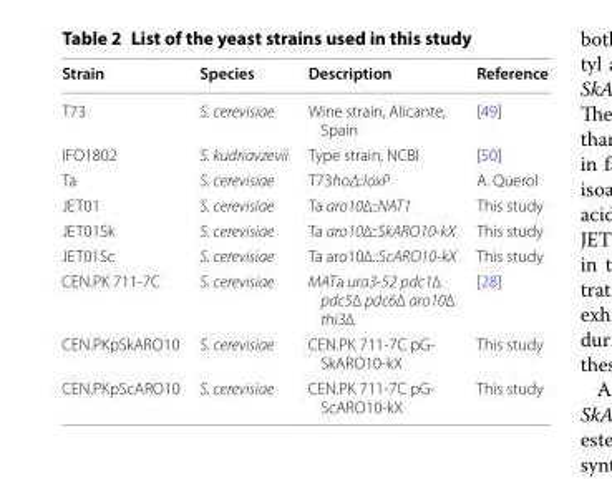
<table><thead><tr><td>Strain</td><td>Species</td><td>Description</td><td>Reference</td></tr></thead><tbody><tr><td>T73</td><td>S. cerevisiae</td><td>Wine strain, Alicante, Spain</td><td>[49]</td></tr><tr><td>IFO1802</td><td>S. kudriavzevii</td><td>Type strain, NCBI</td><td>[50]</td></tr><tr><td>Ta</td><td>S. cerevisiae</td><td>T73ho∆::loxP</td><td>A. Querol</td></tr><tr><td>JET01</td><td>S. cerevisiae</td><td>Ta aro10∆::NAT1</td><td>This study</td></tr><tr><td>JET01Sk</td><td>S. cerevisiae</td><td>Ta aro10∆::SkARO10‑kX</td><td>This study</td></tr><tr><td>JET01Sc</td><td>S. cerevisiae</td><td>Ta aro10∆::ScARO10‑kX</td><td>This study</td></tr><tr><td>CEN.PK 711‑7C</td><td>S. cerevisiae</td><td>MATa ura3‑52 pdc1∆ pdc5∆ pdc6∆ aro10∆ thi3∆</td><td>[28]</td></tr><tr><td>CEN.PKpSkARO10</td><td>S. cerevisiae</td><td>CEN.PK 711‑7C pG‑ SkARO10‑kX</td><td>This study</td></tr><tr><td>CEN.PKpScARO10</td><td>S. cerevisiae</td><td>CEN.PK 711‑7C pG‑ ScARO10‑kX</td><td>This study</td></tr></tbody></table>